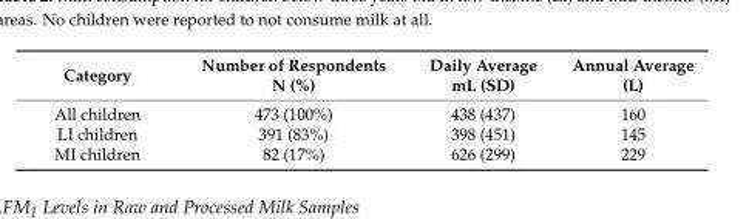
<table><thead><tr><td>Category</td><td>Number of Respondents N (%)</td><td>Daily Average mL (SD)</td><td>Annual Average (L)</td></tr></thead><tbody><tr><td>All children</td><td>473 (100%)</td><td>438 (437)</td><td>160</td></tr><tr><td>LI children</td><td>391 (83%)</td><td>398 (451)</td><td>145</td></tr><tr><td>MI children</td><td>82 (17%)</td><td>626 (299)</td><td>229</td></tr></tbody></table>